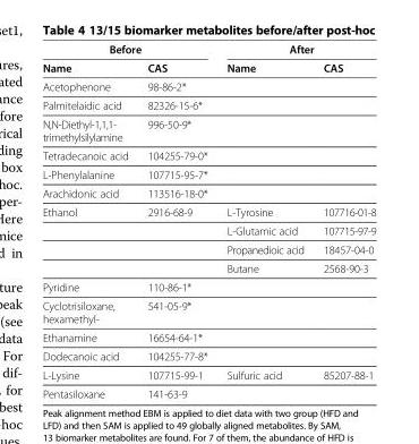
<table><thead><tr><td colspan="2">Before</td><td colspan="2">After</td></tr><tr><td>Name</td><td>CAS</td><td>Name</td><td>CAS</td></tr></thead><tbody><tr><td>Acetophenone</td><td>98-86-2*</td><td></td><td></td></tr><tr><td>Palmitelaidic acid</td><td>82326-15-6*</td><td></td><td></td></tr><tr><td>N,N-Diethyl-1,1,1- trimethylsilylamine</td><td>996-50-9*</td><td></td><td></td></tr><tr><td>Tetradecanoic acid</td><td>104255-79-0*</td><td></td><td></td></tr><tr><td>L-Phenylalanine</td><td>107715-95-7*</td><td></td><td></td></tr><tr><td>Arachidonic acid</td><td>113516-18-0*</td><td></td><td></td></tr><tr><td rowspan="4">Ethanol</td><td>2916-68-9</td><td>L-Tyrosine</td><td>107716-01-8</td></tr><tr><td></td><td>L-Glutamic acid</td><td>107715-97-9</td></tr><tr><td></td><td>Propanedioic acid</td><td>18457-04-0</td></tr><tr><td></td><td>Butane</td><td>2568-90-3</td></tr><tr><td>Pyridine</td><td>110-86-1*</td><td></td><td></td></tr><tr><td>Cyclotrisiloxane, hexamethyl-</td><td>541-05-9*</td><td></td><td></td></tr><tr><td>Ethanamine</td><td>16654-64-1*</td><td></td><td></td></tr><tr><td>Dodecanoic acid</td><td>104255-77-8*</td><td></td><td></td></tr><tr><td>L-Lysine</td><td>107715-99-1</td><td>Sulfuric acid</td><td>85207-88-1</td></tr><tr><td>Pentasiloxane</td><td>141-63-9</td><td></td><td></td></tr></tbody></table>